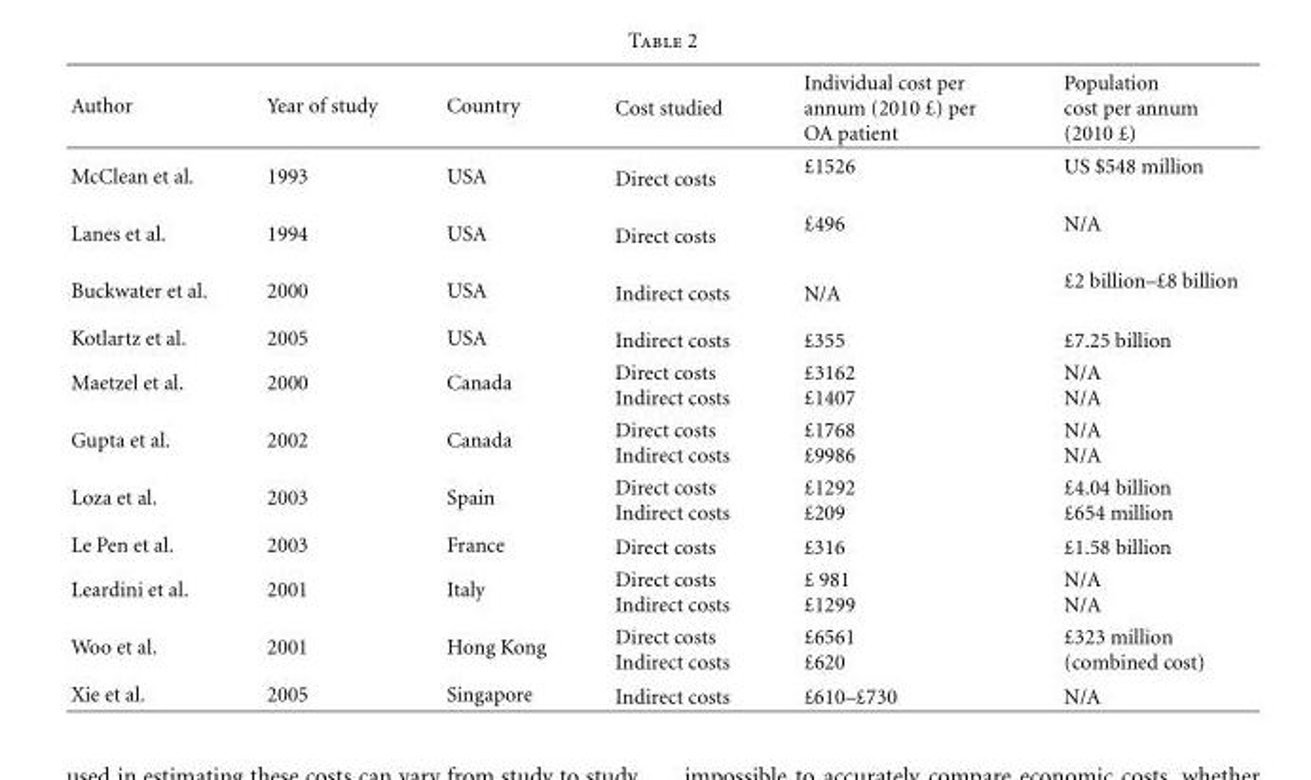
<table><thead><tr><td>Author</td><td>Year of study</td><td>Country</td><td>Cost studied</td><td>Individual cost per annum (2010 £) per OA patient</td><td>Population cost per annum (2010 £)</td></tr></thead><tbody><tr><td>McClean et al.</td><td>1993</td><td>USA</td><td>Direct costs</td><td>£1526</td><td>US $548 million</td></tr><tr><td>Lanes et al.</td><td>1994</td><td>USA</td><td>Direct costs</td><td>£496</td><td>N/A</td></tr><tr><td>Buckwater et al.</td><td>2000</td><td>USA</td><td>Indirect costs</td><td>N/A</td><td>£2 billion–£8 billion</td></tr><tr><td>Kotlartz et al.</td><td>2005</td><td>USA</td><td>Indirect costs</td><td>£355</td><td>£7.25 billion</td></tr><tr><td>Maetzel et al.</td><td>2000</td><td>Canada</td><td>Direct costs Indirect costs</td><td>£3162 £1407</td><td>N/A N/A</td></tr><tr><td>Gupta et al.</td><td>2002</td><td>Canada</td><td>Direct costs Indirect costs</td><td>£1768 £9986</td><td>N/A N/A</td></tr><tr><td>Loza et al.</td><td>2003</td><td>Spain</td><td>Direct costs Indirect costs</td><td>£1292 £209</td><td>£4.04 billion £654 million</td></tr><tr><td>Le Pen et al.</td><td>2003</td><td>France</td><td>Direct costs</td><td>£316</td><td>£1.58 billion</td></tr><tr><td>Leardini et al.</td><td>2001</td><td>Italy</td><td>Direct costs Indirect costs</td><td>£ 981 £1299</td><td>N/A N/A</td></tr><tr><td>Woo et al.</td><td>2001</td><td>Hong Kong</td><td>Direct costs Indirect costs</td><td>£6561 £620</td><td>£323 million (combined cost)</td></tr><tr><td>Xie et al.</td><td>2005</td><td>Singapore</td><td>Indirect costs</td><td>£610–£730</td><td>N/A</td></tr></tbody></table>